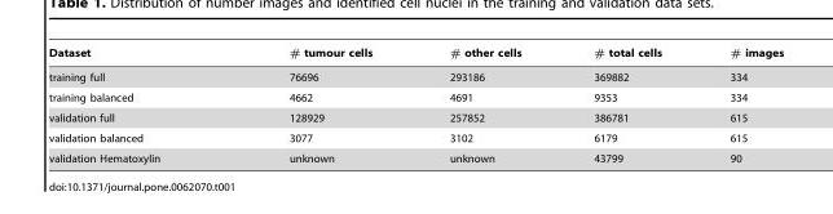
<table><thead><tr><td>Dataset</td><td># tumour cells</td><td># other cells</td><td># total cells</td><td># images</td></tr></thead><tbody><tr><td>training full</td><td>76696</td><td>293186</td><td>369882</td><td>334</td></tr><tr><td>training balanced</td><td>4662</td><td>4691</td><td>9353</td><td>334</td></tr><tr><td>validation full</td><td>128929</td><td>257852</td><td>386781</td><td>615</td></tr><tr><td>validation balanced</td><td>3077</td><td>3102</td><td>6179</td><td>615</td></tr><tr><td>validation Hematoxylin</td><td>unknown</td><td>unknown</td><td>43799</td><td>90</td></tr></tbody></table>